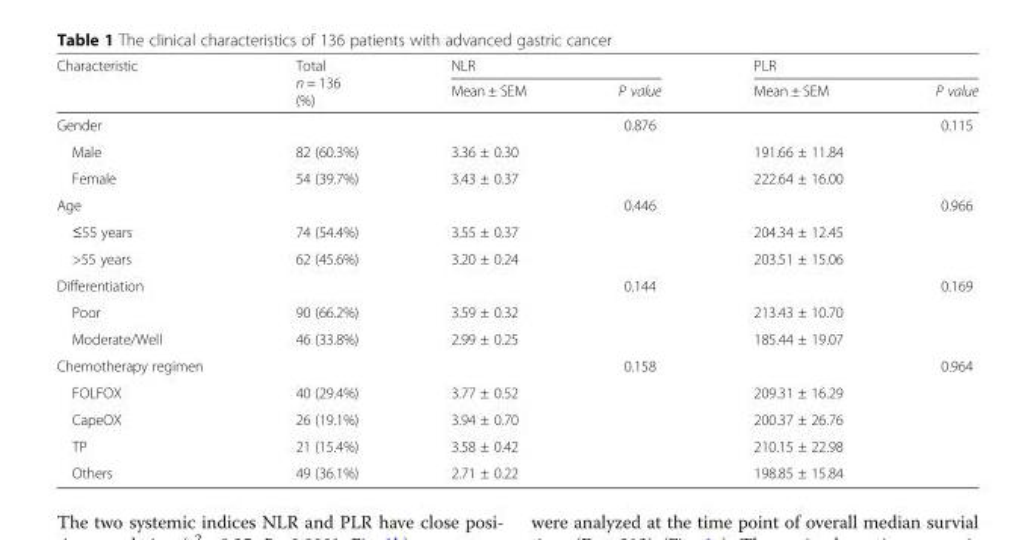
<table><thead><tr><td rowspan="2">Characteristic</td><td rowspan="2">Total n = 136 (%)</td><td colspan="2">NLR</td><td colspan="2">PLR</td></tr><tr><td>Mean ± SEM</td><td>P value</td><td>Mean ± SEM</td><td>P value</td></tr></thead><tbody><tr><td>Gender</td><td></td><td></td><td>0.876</td><td></td><td>0.115</td></tr><tr><td>Male</td><td>82 (60.3%)</td><td>3.36 ± 0.30</td><td></td><td>191.66 ± 11.84</td><td></td></tr><tr><td>Female</td><td>54 (39.7%)</td><td>3.43 ± 0.37</td><td></td><td>222.64 ± 16.00</td><td></td></tr><tr><td>Age</td><td></td><td></td><td>0.446</td><td></td><td>0.966</td></tr><tr><td>≤55 years</td><td>74 (54.4%)</td><td>3.55 ± 0.37</td><td></td><td>204.34 ± 12.45</td><td></td></tr><tr><td>&gt;55 years</td><td>62 (45.6%)</td><td>3.20 ± 0.24</td><td></td><td>203.51 ± 15.06</td><td></td></tr><tr><td>Differentiation</td><td></td><td></td><td>0.144</td><td></td><td>0.169</td></tr><tr><td>Poor</td><td>90 (66.2%)</td><td>3.59 ± 0.32</td><td></td><td>213.43 ± 10.70</td><td></td></tr><tr><td>Moderate/Well</td><td>46 (33.8%)</td><td>2.99 ± 0.25</td><td></td><td>185.44 ± 19.07</td><td></td></tr><tr><td>Chemotherapy regimen</td><td></td><td></td><td>0.158</td><td></td><td>0.964</td></tr><tr><td>FOLFOX</td><td>40 (29.4%)</td><td>3.77 ± 0.52</td><td></td><td>209.31 ± 16.29</td><td></td></tr><tr><td>CapeOX</td><td>26 (19.1%)</td><td>3.94 ± 0.70</td><td></td><td>200.37 ± 26.76</td><td></td></tr><tr><td>TP</td><td>21 (15.4%)</td><td>3.58 ± 0.42</td><td></td><td>210.15 ± 22.98</td><td></td></tr><tr><td>Others</td><td>49 (36.1%)</td><td>2.71 ± 0.22</td><td></td><td>198.85 ± 15.84</td><td></td></tr></tbody></table>